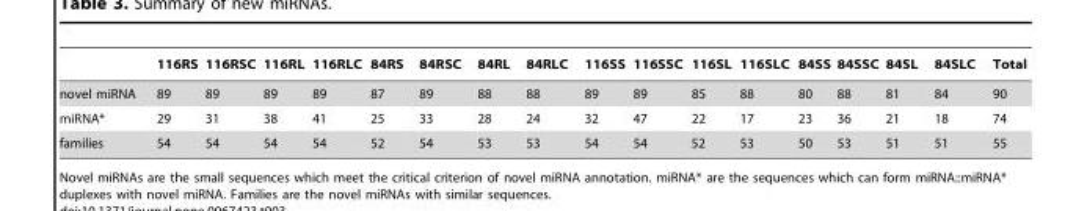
<table><thead><tr><td></td><td>116RS</td><td>116RSC</td><td>116RL</td><td>116RLC</td><td>84RS</td><td>84RSC</td><td>84RL</td><td>84RLC</td><td>116SS</td><td>116SSC</td><td>116SL</td><td>116SLC</td><td>84SS</td><td>84SSC</td><td>84SL</td><td>84SLC</td><td>Total</td></tr></thead><tbody><tr><td>novel miRNA</td><td>89</td><td>89</td><td>89</td><td>89</td><td>87</td><td>89</td><td>88</td><td>88</td><td>89</td><td>89</td><td>85</td><td>88</td><td>80</td><td>88</td><td>81</td><td>84</td><td>90</td></tr><tr><td>miRNA*</td><td>29</td><td>31</td><td>38</td><td>41</td><td>25</td><td>33</td><td>28</td><td>24</td><td>32</td><td>47</td><td>22</td><td>17</td><td>23</td><td>36</td><td>21</td><td>18</td><td>74</td></tr><tr><td>families</td><td>54</td><td>54</td><td>54</td><td>54</td><td>52</td><td>54</td><td>53</td><td>53</td><td>54</td><td>54</td><td>52</td><td>53</td><td>50</td><td>53</td><td>51</td><td>51</td><td>55</td></tr></tbody></table>